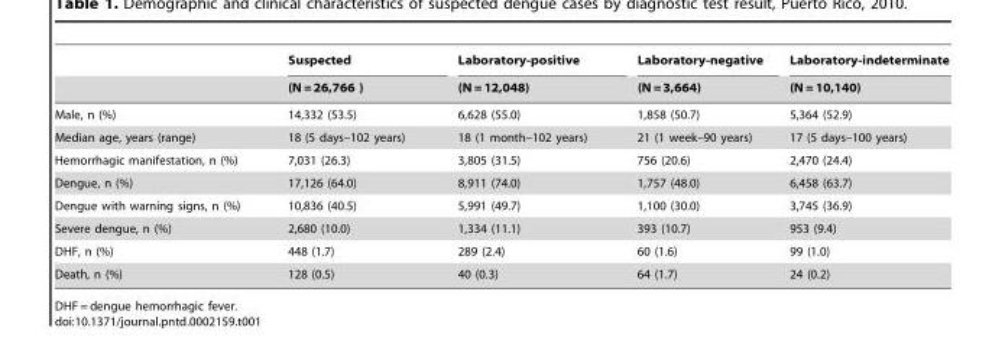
<table><thead><tr><td rowspan="2"></td><td rowspan="2">Suspected (N = 26,766 )</td><td rowspan="2">Laboratory-positive (N = 12,048)</td><td rowspan="2">Laboratory-negative (N = 3,664)</td><td rowspan="2">Laboratory-indeterminate (N = 10,140)</td></tr><tr></tr></thead><tbody><tr><td>Male, n (%)</td><td>14,332 (53.5)</td><td>6,628 (55.0)</td><td>1,858 (50.7)</td><td>5,364 (52.9)</td></tr><tr><td>Median age, years (range)</td><td>18 (5 days–102 years)</td><td>18 (1 month–102 years)</td><td>21 (1 week–90 years)</td><td>17 (5 days–100 years)</td></tr><tr><td>Hemorrhagic manifestation, n (%)</td><td>7,031 (26.3)</td><td>3,805 (31.5)</td><td>756 (20.6)</td><td>2,470 (24.4)</td></tr><tr><td>Dengue, n (%)</td><td>17,126 (64.0)</td><td>8,911 (74.0)</td><td>1,757 (48.0)</td><td>6,458 (63.7)</td></tr><tr><td>Dengue with warning signs, n (%)</td><td>10,836 (40.5)</td><td>5,991 (49.7)</td><td>1,100 (30.0)</td><td>3,745 (36.9)</td></tr><tr><td>Severe dengue, n (%)</td><td>2,680 (10.0)</td><td>1,334 (11.1)</td><td>393 (10.7)</td><td>953 (9.4)</td></tr><tr><td>DHF, n (%)</td><td>448 (1.7)</td><td>289 (2.4)</td><td>60 (1.6)</td><td>99 (1.0)</td></tr><tr><td>Death, n (%)</td><td>128 (0.5)</td><td>40 (0.3)</td><td>64 (1.7)</td><td>24 (0.2)</td></tr></tbody></table>